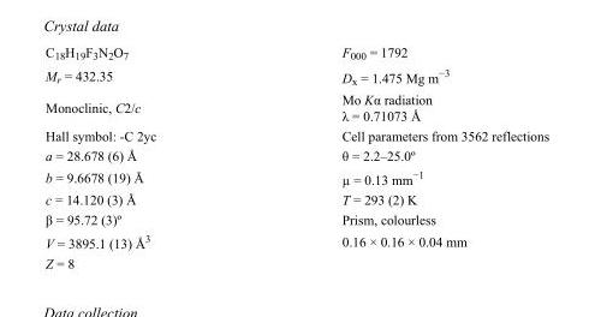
<table><tbody><tr><td>C<sub>18</sub>H<sub>19</sub>F<sub>3</sub>N<sub>2</sub>O<sub>7</sub></td><td>F<sub>000</sub> = 1792</td></tr><tr><td>M<sub>r</sub> = 432.35</td><td>D<sub>x</sub> = 1.475 Mg m<sup>−3</sup></td></tr><tr><td>Monoclinic, C2/c</td><td>Mo Kα radiation λ = 0.71073 Å</td></tr><tr><td>Hall symbol: -C 2yc</td><td>Cell parameters from 3562 reflections</td></tr><tr><td>a = 28.678 (6) Å</td><td>θ = 2.2–25.0º</td></tr><tr><td>b = 9.6678 (19) Å</td><td>µ = 0.13 mm<sup>−1</sup></td></tr><tr><td>c = 14.120 (3) Å</td><td>T = 293 (2) K</td></tr><tr><td>β = 95.72 (3)º</td><td>Prism, colourless</td></tr><tr><td>V = 3895.1 (13) Å<sup>3</sup></td><td>0.16 × 0.16 × 0.04 mm</td></tr><tr><td>Z = 8</td><td></td></tr></tbody></table>